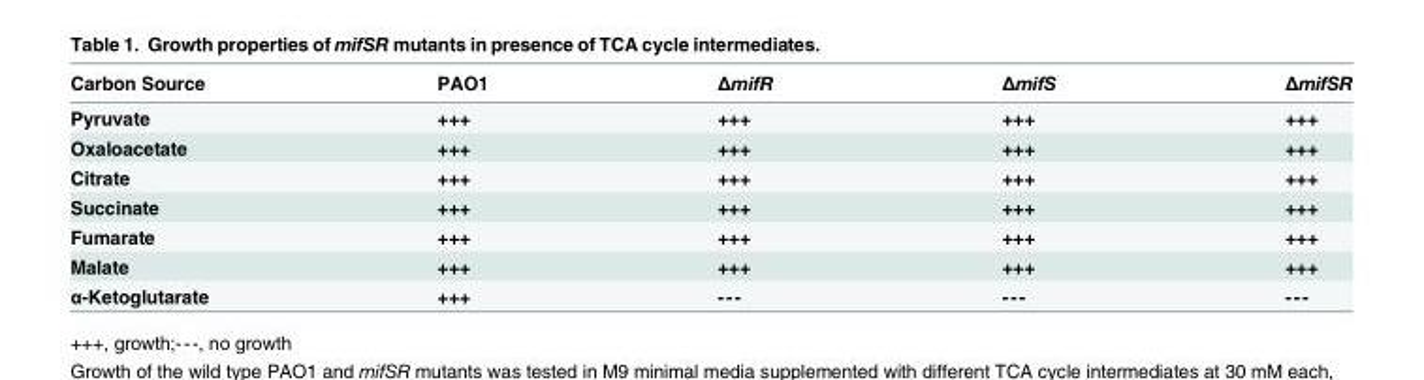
<table><thead><tr><td>Carbon Source</td><td>PAO1</td><td>ΔmifR</td><td>ΔmifS</td><td>ΔmifSR</td></tr></thead><tbody><tr><td>Pyruvate</td><td>+++</td><td>+++</td><td>+++</td><td>+++</td></tr><tr><td>Oxaloacetate</td><td>+++</td><td>+++</td><td>+++</td><td>+++</td></tr><tr><td>Citrate</td><td>+++</td><td>+++</td><td>+++</td><td>+++</td></tr><tr><td>Succinate</td><td>+++</td><td>+++</td><td>+++</td><td>+++</td></tr><tr><td>Fumarate</td><td>+++</td><td>+++</td><td>+++</td><td>+++</td></tr><tr><td>Malate</td><td>+++</td><td>+++</td><td>+++</td><td>+++</td></tr><tr><td>α-Ketoglutarate</td><td>+++</td><td>---</td><td>---</td><td>---</td></tr></tbody></table>